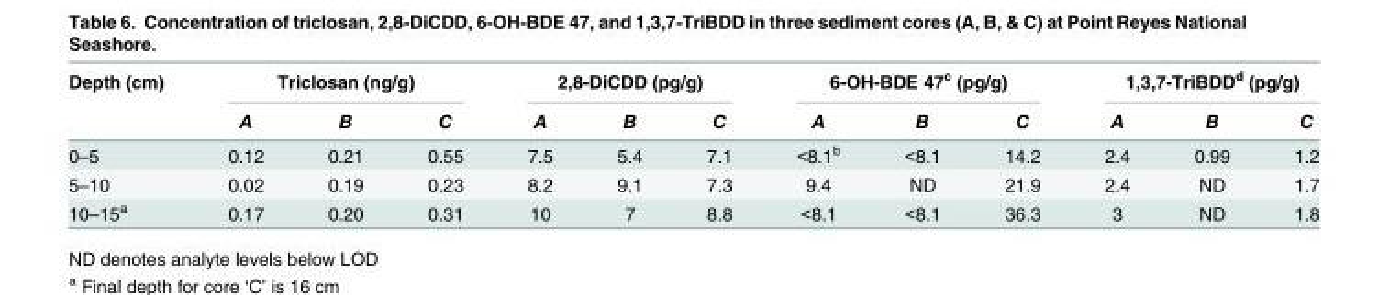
<table><thead><tr><td rowspan="2">Depth (cm)</td><td colspan="3">Triclosan (ng/g)</td><td colspan="3">2,8-DiCDD (pg/g)</td><td colspan="3">6-OH-BDE 47<sup>c</sup> (pg/g)</td><td colspan="3">1,3,7-TriBDD<sup>d</sup> (pg/g)</td></tr><tr><td>A</td><td>B</td><td>C</td><td>A</td><td>B</td><td>C</td><td>A</td><td>B</td><td>C</td><td>A</td><td>B</td><td>C</td></tr></thead><tbody><tr><td>0–5</td><td>0.12</td><td>0.21</td><td>0.55</td><td>7.5</td><td>5.4</td><td>7.1</td><td>&lt;8.1<sup>b</sup></td><td>&lt;8.1</td><td>14.2</td><td>2.4</td><td>0.99</td><td>1.2</td></tr><tr><td>5–10</td><td>0.02</td><td>0.19</td><td>0.23</td><td>8.2</td><td>9.1</td><td>7.3</td><td>9.4</td><td>ND</td><td>21.9</td><td>2.4</td><td>ND</td><td>1.7</td></tr><tr><td>10–15<sup>a</sup></td><td>0.17</td><td>0.20</td><td>0.31</td><td>10</td><td>7</td><td>8.8</td><td>&lt;8.1</td><td>&lt;8.1</td><td>36.3</td><td>3</td><td>ND</td><td>1.8</td></tr></tbody></table>